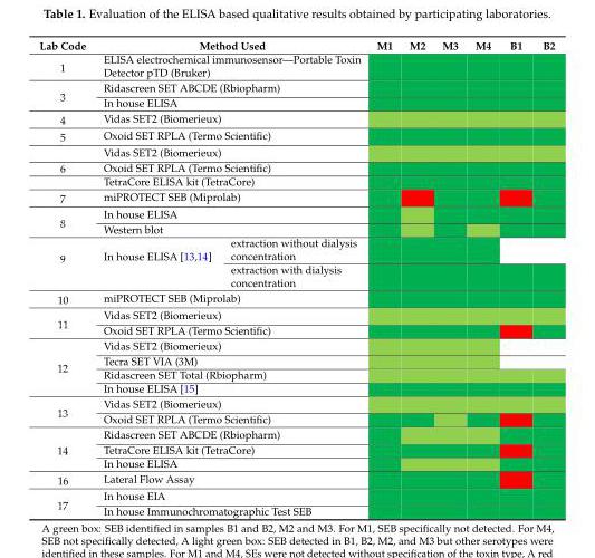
<table><thead><tr><td>Lab Code</td><td colspan="2">Method Used</td><td>M1</td><td>M2</td><td>M3</td><td>M4</td><td>B1</td><td>B2</td></tr></thead><tbody><tr><td>1</td><td colspan="2">ELISA electrochemical immunosensor—Portable Toxin Detector pTD (Bruker)</td><td></td><td></td><td></td><td></td><td></td><td></td></tr><tr><td rowspan="2">3</td><td colspan="2">Ridascreen SET ABCDE (Rbiopharm)</td><td></td><td></td><td></td><td></td><td></td><td></td></tr><tr><td colspan="2">In house ELISA</td><td></td><td></td><td></td><td></td><td></td><td></td></tr><tr><td>4</td><td colspan="2">Vidas SET2 (Biomerieux)</td><td></td><td></td><td></td><td></td><td></td><td></td></tr><tr><td>5</td><td colspan="2">Oxoid SET RPLA (Termo Scientific)</td><td></td><td></td><td></td><td></td><td></td><td></td></tr><tr><td rowspan="3">6</td><td colspan="2">Vidas SET2 (Biomerieux)</td><td></td><td></td><td></td><td></td><td></td><td></td></tr><tr><td colspan="2">Oxoid SET RPLA (Termo Scientific)</td><td></td><td></td><td></td><td></td><td></td><td></td></tr><tr><td colspan="2">TetraCore ELISA kit (TetraCore)</td><td></td><td></td><td></td><td></td><td></td><td></td></tr><tr><td>7</td><td colspan="2">miPROTECT SEB (Miprolab)</td><td></td><td></td><td></td><td></td><td></td><td></td></tr><tr><td rowspan="2">8</td><td colspan="2">In house ELISA</td><td></td><td></td><td></td><td></td><td></td><td></td></tr><tr><td colspan="2">Western blot</td><td></td><td></td><td></td><td></td><td></td><td></td></tr><tr><td rowspan="2">9</td><td rowspan="2">In house ELISA [13,14]</td><td>extraction without dialysis concentration</td><td></td><td></td><td></td><td></td><td></td><td></td></tr><tr><td>extraction with dialysis concentration</td><td></td><td></td><td></td><td></td><td></td><td></td></tr><tr><td>10</td><td colspan="2">miPROTECT SEB (Miprolab)</td><td></td><td></td><td></td><td></td><td></td><td></td></tr><tr><td rowspan="2">11</td><td colspan="2">Vidas SET2 (Biomerieux)</td><td></td><td></td><td></td><td></td><td></td><td></td></tr><tr><td colspan="2">Oxoid SET RPLA (Termo Scientific)</td><td></td><td></td><td></td><td></td><td></td><td></td></tr><tr><td rowspan="4">12</td><td colspan="2">Vidas SET2 (Biomerieux)</td><td></td><td></td><td></td><td></td><td></td><td></td></tr><tr><td colspan="2">Tecra SET VIA (3M)</td><td></td><td></td><td></td><td></td><td></td><td></td></tr><tr><td colspan="2">Ridascreen SET Total (Rbiopharm)</td><td></td><td></td><td></td><td></td><td></td><td></td></tr><tr><td colspan="2">In house ELISA [15]</td><td></td><td></td><td></td><td></td><td></td><td></td></tr><tr><td rowspan="2">13</td><td colspan="2">Vidas SET2 (Biomerieux)</td><td></td><td></td><td></td><td></td><td></td><td></td></tr><tr><td colspan="2">Oxoid SET RPLA (Termo Scientific)</td><td></td><td></td><td></td><td></td><td></td><td></td></tr><tr><td rowspan="3">14</td><td colspan="2">Ridascreen SET ABCDE (Rbiopharm)</td><td></td><td></td><td></td><td></td><td></td><td></td></tr><tr><td colspan="2">TetraCore ELISA kit (TetraCore)</td><td></td><td></td><td></td><td></td><td></td><td></td></tr><tr><td colspan="2">In house ELISA</td><td></td><td></td><td></td><td></td><td></td><td></td></tr><tr><td>16</td><td colspan="2">Lateral Flow Assay</td><td></td><td></td><td></td><td></td><td></td><td></td></tr><tr><td rowspan="2">17</td><td colspan="2">In house EIA</td><td></td><td></td><td></td><td></td><td></td><td></td></tr><tr><td colspan="2">In house Immunochromatographic Test SEB</td><td></td><td></td><td></td><td></td><td></td><td></td></tr></tbody></table>